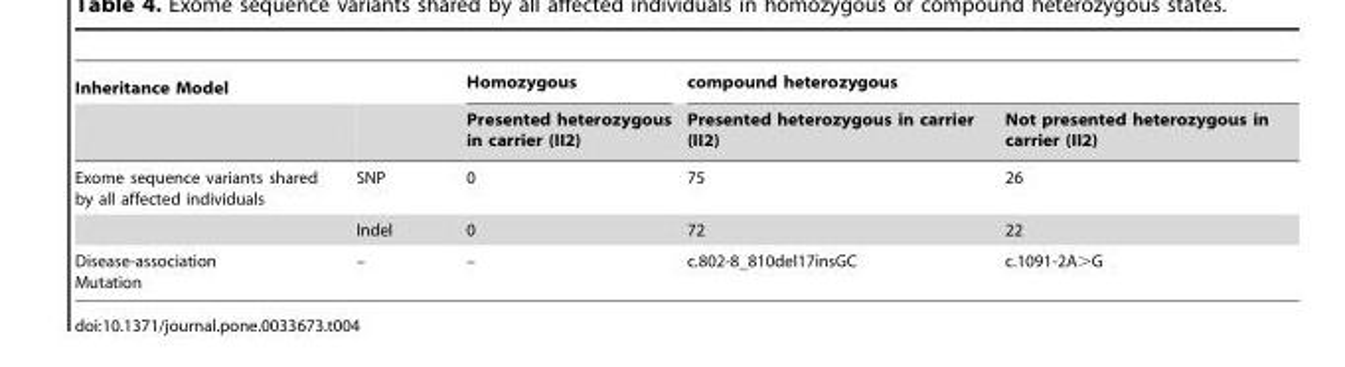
<table><thead><tr><td rowspan="2">Inheritance Model</td><td rowspan="2"></td><td rowspan="2">Homozygous Presented heterozygous in carrier (II2)</td><td colspan="2">compound heterozygous</td></tr><tr><td>Presented heterozygous in carrier (II2)</td><td>Not presented heterozygous in carrier (II2)</td></tr></thead><tbody><tr><td rowspan="2">Exome sequence variants shared by all affected individuals</td><td>SNP</td><td>0</td><td>75</td><td>26</td></tr><tr><td>Indel</td><td>0</td><td>72</td><td>22</td></tr><tr><td>Disease-association Mutation</td><td>–</td><td>–</td><td>c.802-8_810del17insGC</td><td>c.1091-2A&gt;G</td></tr></tbody></table>